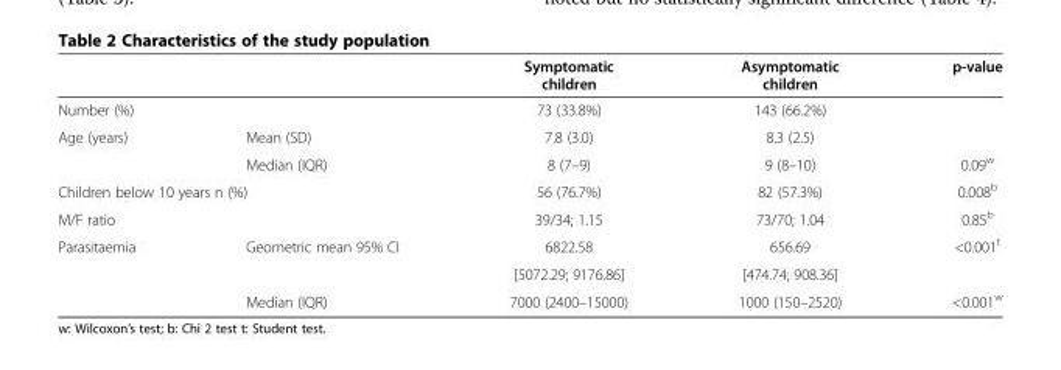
<table><thead><tr><td></td><td></td><td>Symptomatic children</td><td>Asymptomatic children</td><td>p-value</td></tr></thead><tbody><tr><td>Number (%)</td><td></td><td>73 (33.8%)</td><td>143 (66.2%)</td><td></td></tr><tr><td rowspan="2">Age (years)</td><td>Mean (SD)</td><td>7.8 (3.0)</td><td>8.3 (2.5)</td><td></td></tr><tr><td>Median (IQR)</td><td>8 (7–9)</td><td>9 (8–10)</td><td>0.09<sup>w</sup></td></tr><tr><td colspan="2">Children below 10 years n (%)</td><td>56 (76.7%)</td><td>82 (57.3%)</td><td>0.008<sup>b</sup></td></tr><tr><td>M/F ratio</td><td></td><td>39/34; 1.15</td><td>73/70; 1.04</td><td>0.85<sup>b</sup></td></tr><tr><td rowspan="3">Parasitaemia</td><td rowspan="2">Geometric mean 95% CI</td><td>6822.58</td><td>656.69</td><td>&lt;0.001<sup>t</sup></td></tr><tr><td>[5072.29; 9176.86]</td><td>[474.74; 908.36]</td><td></td></tr><tr><td>Median (IQR)</td><td>7000 (2400–15000)</td><td>1000 (150–2520)</td><td>&lt;0.001<sup>w</sup></td></tr></tbody></table>